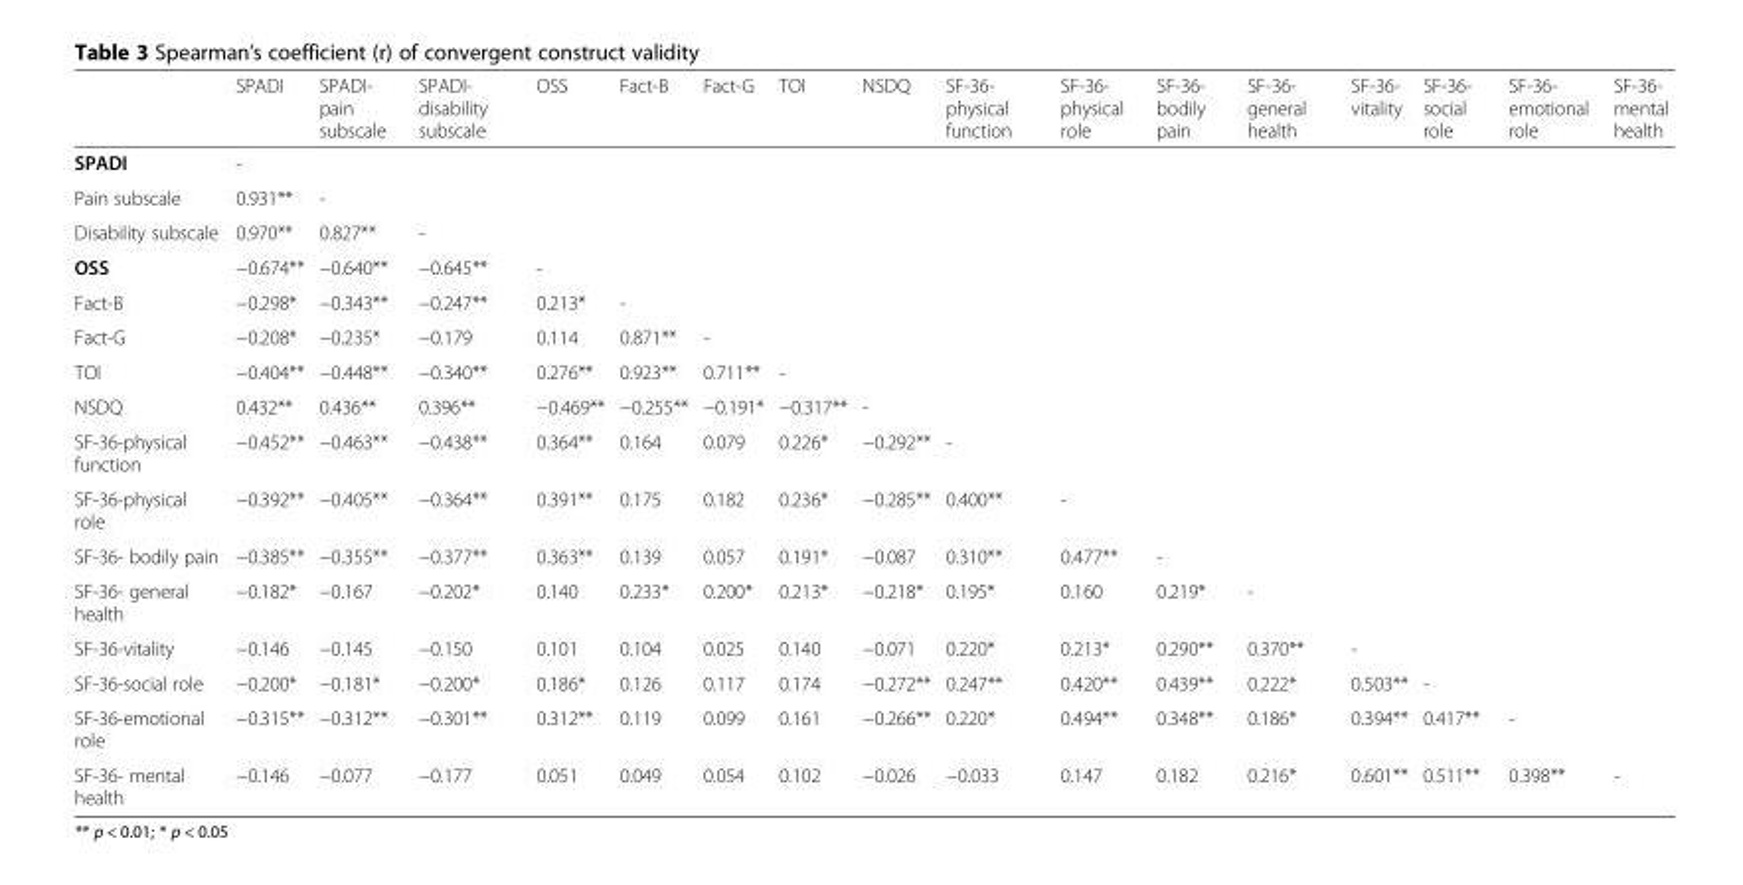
<table><thead><tr><td></td><td>SPADI</td><td>SPADI- pain subscale</td><td>SPADI- disability subscale</td><td>OSS</td><td>Fact-B</td><td>Fact-G</td><td>TOI</td><td>NSDQ</td><td>SF-36- physical function</td><td>SF-36- physical role</td><td>SF-36- bodily pain</td><td>SF-36- general health</td><td>SF-36- vitality</td><td>SF-36- social role</td><td>SF-36- emotional role</td><td>SF-36- mental health</td></tr></thead><tbody><tr><td>SPADI</td><td>-</td><td></td><td></td><td></td><td></td><td></td><td></td><td></td><td></td><td></td><td></td><td></td><td></td><td></td><td></td><td></td></tr><tr><td>Pain subscale</td><td>0.931**</td><td>-</td><td></td><td></td><td></td><td></td><td></td><td></td><td></td><td></td><td></td><td></td><td></td><td></td><td></td><td></td></tr><tr><td>Disability subscale</td><td>0.970**</td><td>0.827**</td><td>-</td><td></td><td></td><td></td><td></td><td></td><td></td><td></td><td></td><td></td><td></td><td></td><td></td><td></td></tr><tr><td>OSS</td><td>−0.674**</td><td>−0.640**</td><td>−0.645**</td><td>-</td><td></td><td></td><td></td><td></td><td></td><td></td><td></td><td></td><td></td><td></td><td></td><td></td></tr><tr><td>Fact-B</td><td>−0.298*</td><td>−0.343**</td><td>−0.247**</td><td>0.213*</td><td>-</td><td></td><td></td><td></td><td></td><td></td><td></td><td></td><td></td><td></td><td></td><td></td></tr><tr><td>Fact-G</td><td>−0.208*</td><td>−0.235*</td><td>−0.179</td><td>0.114</td><td>0.871**</td><td>-</td><td></td><td></td><td></td><td></td><td></td><td></td><td></td><td></td><td></td><td></td></tr><tr><td>TOI</td><td>−0.404**</td><td>−0.448**</td><td>−0.340**</td><td>0.276**</td><td>0.923**</td><td>0.711**</td><td>-</td><td></td><td></td><td></td><td></td><td></td><td></td><td></td><td></td><td></td></tr><tr><td>NSDQ</td><td>0.432**</td><td>0.436**</td><td>0.396**</td><td>−0.469**</td><td>−0.255**</td><td>−0.191*</td><td>−0.317**</td><td>-</td><td></td><td></td><td></td><td></td><td></td><td></td><td></td><td></td></tr><tr><td>SF-36-physical function</td><td>−0.452**</td><td>−0.463**</td><td>−0.438**</td><td>0.364**</td><td>0.164</td><td>0.079</td><td>0.226*</td><td>−0.292**</td><td>-</td><td></td><td></td><td></td><td></td><td></td><td></td><td></td></tr><tr><td>SF-36-physical role</td><td>−0.392**</td><td>−0.405**</td><td>−0.364**</td><td>0.391**</td><td>0.175</td><td>0.182</td><td>0.236*</td><td>−0.285**</td><td>0.400**</td><td>-</td><td></td><td></td><td></td><td></td><td></td><td></td></tr><tr><td>SF-36- bodily pain</td><td>−0.385**</td><td>−0.355**</td><td>−0.377**</td><td>0.363**</td><td>0.139</td><td>0.057</td><td>0.191*</td><td>−0.087</td><td>0.310**</td><td>0.477**</td><td>-</td><td></td><td></td><td></td><td></td><td></td></tr><tr><td>SF-36- general health</td><td>−0.182*</td><td>−0.167</td><td>−0.202*</td><td>0.140</td><td>0.233*</td><td>0.200*</td><td>0.213*</td><td>−0.218*</td><td>0.195*</td><td>0.160</td><td>0.219*</td><td>-</td><td></td><td></td><td></td><td></td></tr><tr><td>SF-36-vitality</td><td>−0.146</td><td>−0.145</td><td>−0.150</td><td>0.101</td><td>0.104</td><td>0.025</td><td>0.140</td><td>−0.071</td><td>0.220*</td><td>0.213*</td><td>0.290**</td><td>0.370**</td><td>-</td><td></td><td></td><td></td></tr><tr><td>SF-36-social role</td><td>−0.200*</td><td>−0.181*</td><td>−0.200*</td><td>0.186*</td><td>0.126</td><td>0.117</td><td>0.174</td><td>−0.272**</td><td>0.247**</td><td>0.420**</td><td>0.439**</td><td>0.222*</td><td>0.503**</td><td>-</td><td></td><td></td></tr><tr><td>SF-36-emotional role</td><td>−0.315**</td><td>−0.312**</td><td>−0.301**</td><td>0.312**</td><td>0.119</td><td>0.099</td><td>0.161</td><td>−0.266**</td><td>0.220*</td><td>0.494**</td><td>0.348**</td><td>0.186*</td><td>0.394**</td><td>0.417**</td><td>-</td><td></td></tr><tr><td>SF-36- mental health</td><td>−0.146</td><td>−0.077</td><td>−0.177</td><td>0.051</td><td>0.049</td><td>0.054</td><td>0.102</td><td>−0.026</td><td>−0.033</td><td>0.147</td><td>0.182</td><td>0.216*</td><td>0.601**</td><td>0.511**</td><td>0.398**</td><td>-</td></tr></tbody></table>